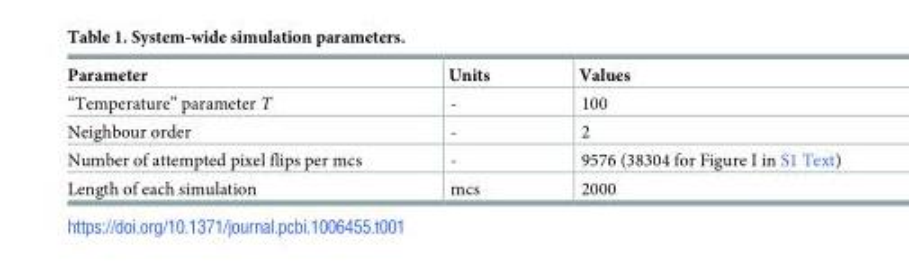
<table><thead><tr><td>Parameter</td><td>Units</td><td>Values</td></tr></thead><tbody><tr><td>“Temperature” parameter T</td><td>-</td><td>100</td></tr><tr><td>Neighbour order</td><td>-</td><td>2</td></tr><tr><td>Number of attempted pixel flips per mcs</td><td>-</td><td>9576 (38304 for Figure I in S1 Text)</td></tr><tr><td>Length of each simulation</td><td>mcs</td><td>2000</td></tr></tbody></table>